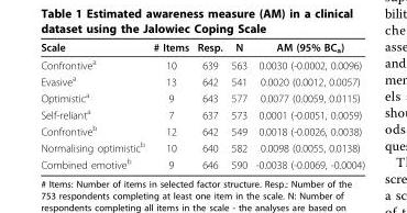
<table><thead><tr><td>Scale</td><td># Items</td><td>Resp.</td><td>N</td><td>AM (95% BC<sub>a</sub>)</td></tr></thead><tbody><tr><td>Confrontive<sup>a</sup></td><td>10</td><td>639</td><td>563</td><td>0.0030 (-0.0002, 0.0096)</td></tr><tr><td>Evasive<sup>a</sup></td><td>13</td><td>642</td><td>541</td><td>0.0020 (0.0012, 0.0057)</td></tr><tr><td>Optimistic<sup>a</sup></td><td>9</td><td>643</td><td>577</td><td>0.0077 (0.0059, 0.0115)</td></tr><tr><td>Self-reliant<sup>a</sup></td><td>7</td><td>637</td><td>573</td><td>0.0001 (-0.0051, 0.0059)</td></tr><tr><td>Confrontive<sup>b</sup></td><td>12</td><td>642</td><td>549</td><td>0.0018 (-0.0026, 0.0038)</td></tr><tr><td>Normalising optimistic<sup>b</sup></td><td>10</td><td>640</td><td>582</td><td>0.0098 (0.0055, 0.0138)</td></tr><tr><td>Combined emotive<sup>b</sup></td><td>9</td><td>646</td><td>590</td><td>-0.0038 (-0.0069, -0.0004)</td></tr></tbody></table>